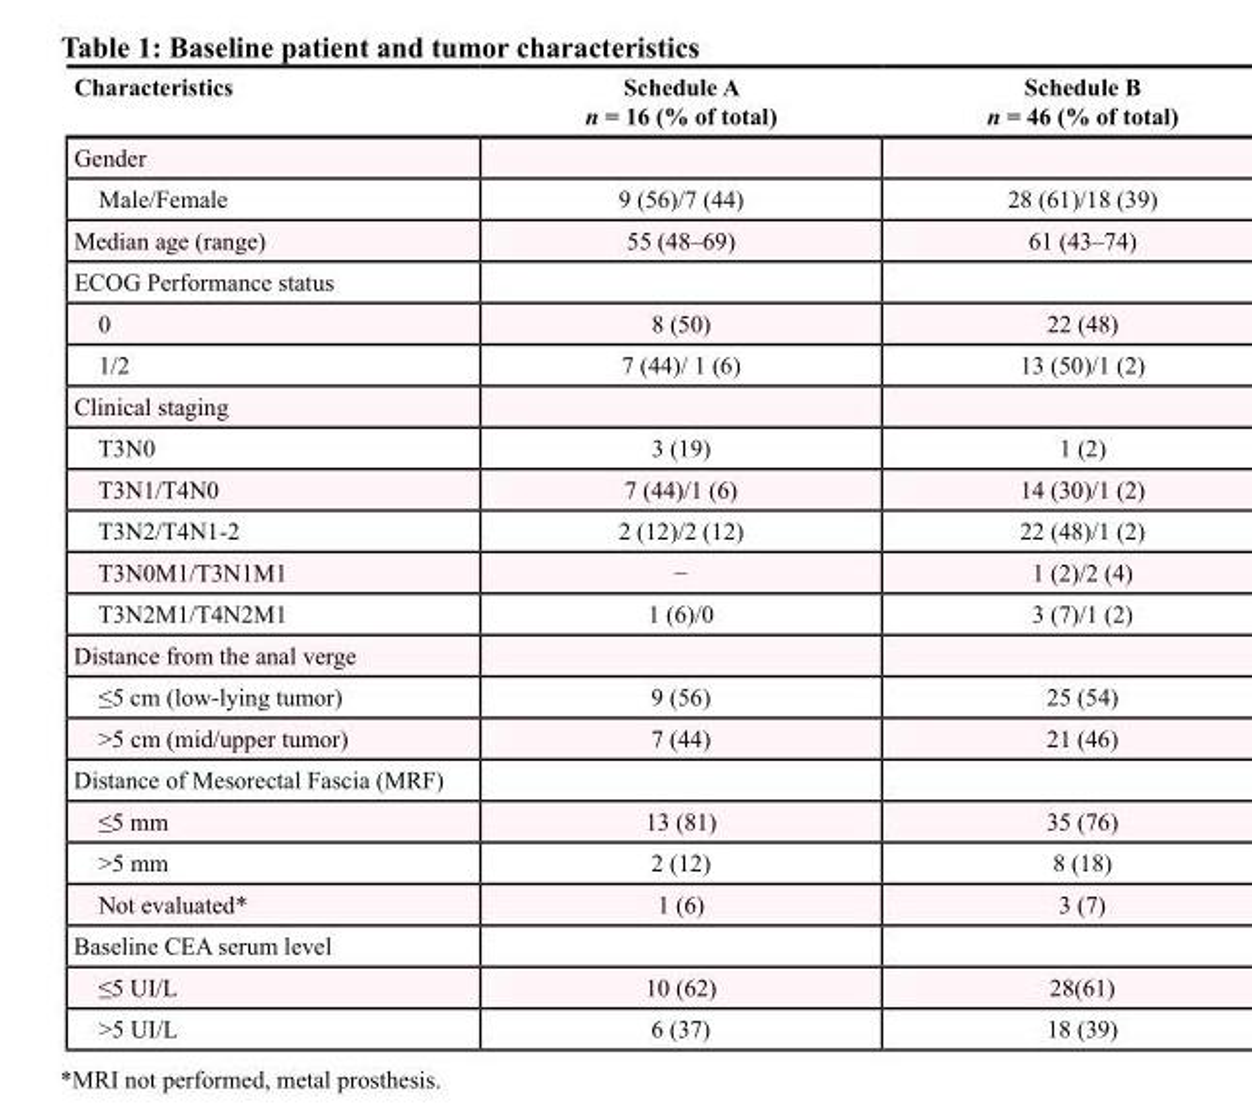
<table><thead><tr><td>Characteristics</td><td>Schedule A n = 16 (% of total)</td><td>Schedule B n = 46 (% of total)</td></tr></thead><tbody><tr><td colspan="3">Gender</td></tr><tr><td>Male/Female</td><td>9 (56)/7 (44)</td><td>28 (61)/18 (39)</td></tr><tr><td>Median age (range)</td><td>55 (48–69)</td><td>61 (43–74)</td></tr><tr><td colspan="3">ECOG Performance status</td></tr><tr><td>0</td><td>8 (50)</td><td>22 (48)</td></tr><tr><td>1/2</td><td>7 (44)/ 1 (6)</td><td>13 (50)/1 (2)</td></tr><tr><td colspan="3">Clinical staging</td></tr><tr><td>T3N0</td><td>3 (19)</td><td>1 (2)</td></tr><tr><td>T3N1/T4N0</td><td>7 (44)/1 (6)</td><td>14 (30)/1 (2)</td></tr><tr><td>T3N2/T4N1-2</td><td>2 (12)/2 (12)</td><td>22 (48)/1 (2)</td></tr><tr><td>T3N0M1/T3N1M1</td><td>−</td><td>1 (2)/2 (4)</td></tr><tr><td>T3N2M1/T4N2M1</td><td>1 (6)/0</td><td>3 (7)/1 (2)</td></tr><tr><td colspan="3">Distance from the anal verge</td></tr><tr><td>≤5 cm (low-lying tumor)</td><td>9 (56)</td><td>25 (54)</td></tr><tr><td>&gt;5 cm (mid/upper tumor)</td><td>7 (44)</td><td>21 (46)</td></tr><tr><td colspan="3">Distance of Mesorectal Fascia (MRF)</td></tr><tr><td>≤5 mm</td><td>13 (81)</td><td>35 (76)</td></tr><tr><td>&gt;5 mm</td><td>2 (12)</td><td>8 (18)</td></tr><tr><td>Not evaluated*</td><td>1 (6)</td><td>3 (7)</td></tr><tr><td colspan="3">Baseline CEA serum level</td></tr><tr><td>≤5 UI/L</td><td>10 (62)</td><td>28(61)</td></tr><tr><td>&gt;5 UI/L</td><td>6 (37)</td><td>18 (39)</td></tr></tbody></table>